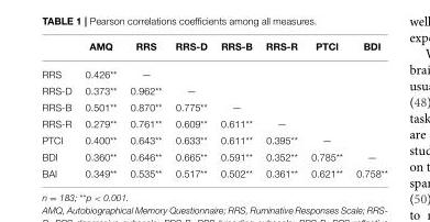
<table><thead><tr><td></td><td>AMQ</td><td>RRS</td><td>RRS-D</td><td>RRS-B</td><td>RRS-R</td><td>PTCI</td><td>BDI</td></tr></thead><tbody><tr><td>RRS</td><td>0.426**</td><td>—</td><td></td><td></td><td></td><td></td><td></td></tr><tr><td>RRS-D</td><td>0.373**</td><td>0.962**</td><td>—</td><td></td><td></td><td></td><td></td></tr><tr><td>RRS-B</td><td>0.501**</td><td>0.870**</td><td>0.775**</td><td>—</td><td></td><td></td><td></td></tr><tr><td>RRS-R</td><td>0.279**</td><td>0.761**</td><td>0.609**</td><td>0.611**</td><td>—</td><td></td><td></td></tr><tr><td>PTCI</td><td>0.400**</td><td>0.643**</td><td>0.633**</td><td>0.611**</td><td>0.395**</td><td>—</td><td></td></tr><tr><td>BDI</td><td>0.360**</td><td>0.646**</td><td>0.665**</td><td>0.591**</td><td>0.352**</td><td>0.785**</td><td>—</td></tr><tr><td>BAI</td><td>0.349**</td><td>0.535**</td><td>0.517**</td><td>0.502**</td><td>0.361**</td><td>0.621**</td><td>0.758**</td></tr></tbody></table>